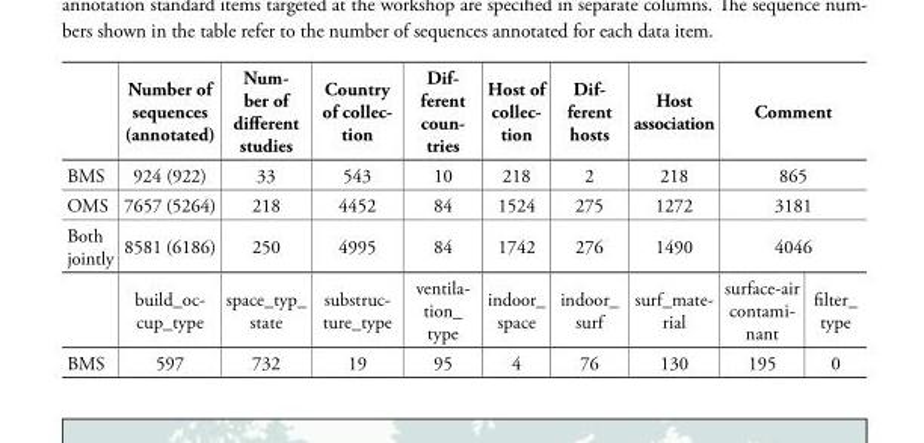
<table><thead><tr><td></td><td>Number of sequences (annotated)</td><td>Num- ber of different studies</td><td>Country of collec- tion</td><td>Dif- ferent coun- tries</td><td>Host of collec- tion</td><td>Dif- ferent hosts</td><td>Host association</td><td colspan="2">Comment</td></tr></thead><tbody><tr><td>BMS</td><td>924 (922)</td><td>33</td><td>543</td><td>10</td><td>218</td><td>2</td><td>218</td><td colspan="2">865</td></tr><tr><td>OMS</td><td>7657 (5264)</td><td>218</td><td>4452</td><td>84</td><td>1524</td><td>275</td><td>1272</td><td colspan="2">3181</td></tr><tr><td rowspan="2">Both jointly</td><td>8581 (6186)</td><td>250</td><td>4995</td><td>84</td><td>1742</td><td>276</td><td>1490</td><td colspan="2">4046</td></tr><tr><td>build_oc- cup_type</td><td>space_typ_ state</td><td>substruc- ture_type</td><td>ventila- tion_ type</td><td>indoor_ space</td><td>indoor_ surf</td><td>surf_mate- rial</td><td>surface-air contami- nant</td><td>filter_ type</td></tr><tr><td>BMS</td><td>597</td><td>732</td><td>19</td><td>95</td><td>4</td><td>76</td><td>130</td><td>195</td><td>0</td></tr></tbody></table>